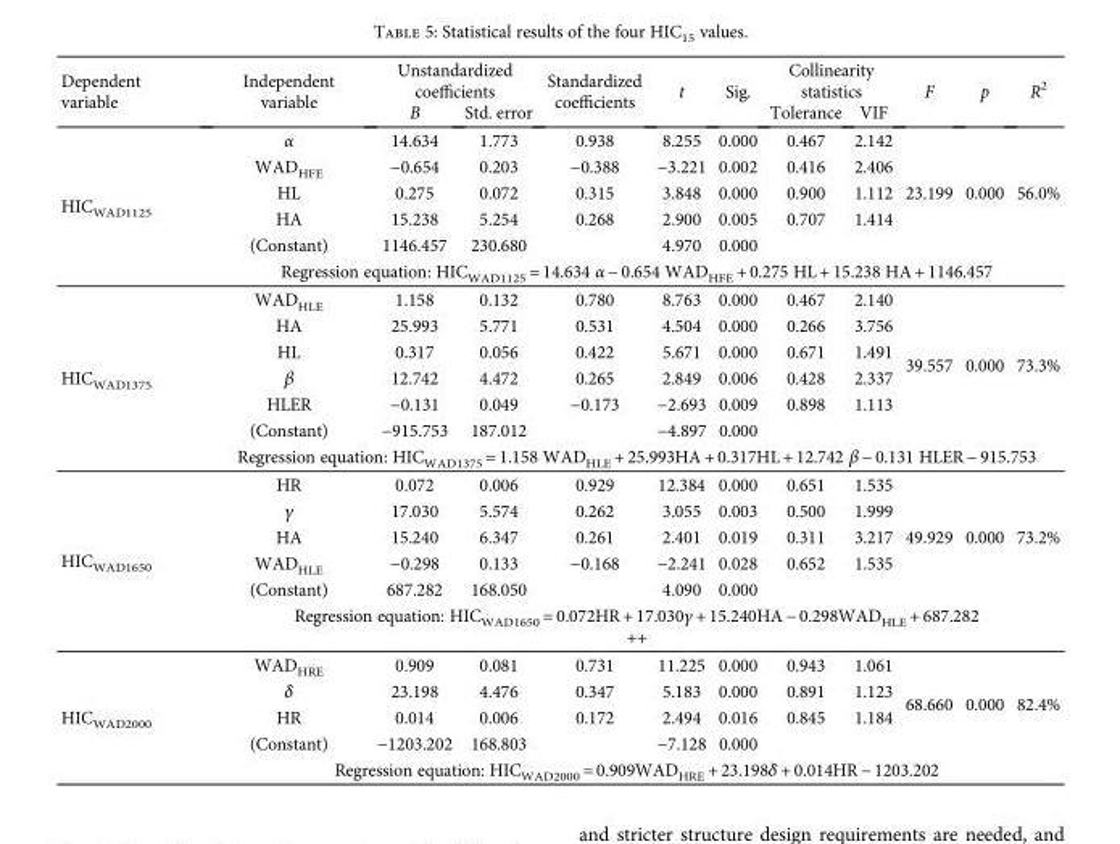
<table><thead><tr><td rowspan="2">Dependent variable</td><td rowspan="2">Independent variable</td><td colspan="2">Unstandardized coefficients</td><td rowspan="2">Standardized coefficients</td><td rowspan="2">t</td><td rowspan="2">Sig.</td><td colspan="2">Collinearity statistics</td><td rowspan="2">F</td><td rowspan="2">p</td><td rowspan="2">R<sup>2</sup></td></tr><tr><td>B</td><td>Std. error</td><td>Tolerance</td><td>VIF</td></tr></thead><tbody><tr><td rowspan="6">HIC<sub>WAD1125</sub></td><td>α</td><td>14.634</td><td>1.773</td><td>0.938</td><td>8.255</td><td>0.000</td><td>0.467</td><td>2.142</td><td rowspan="5">23.199</td><td rowspan="5">0.000</td><td rowspan="5">56.0%</td></tr><tr><td>WAD<sub>HFE</sub></td><td>−0.654</td><td>0.203</td><td>−0.388</td><td>−3.221</td><td>0.002</td><td>0.416</td><td>2.406</td></tr><tr><td>HL</td><td>0.275</td><td>0.072</td><td>0.315</td><td>3.848</td><td>0.000</td><td>0.900</td><td>1.112</td></tr><tr><td>HA</td><td>15.238</td><td>5.254</td><td>0.268</td><td>2.900</td><td>0.005</td><td>0.707</td><td>1.414</td></tr><tr><td>(Constant)</td><td>1146.457</td><td>230.680</td><td></td><td>4.970</td><td>0.000</td><td></td><td></td></tr><tr><td colspan="11">Regression equation: HIC<sub>WAD1125</sub> = 14.634 α − 0.654 WAD<sub>HFE</sub> + 0.275 HL + 15.238 HA + 1146.457</td></tr><tr><td rowspan="7">HIC<sub>WAD1375</sub></td><td>WAD<sub>HLE</sub></td><td>1.158</td><td>0.132</td><td>0.780</td><td>8.763</td><td>0.000</td><td>0.467</td><td>2.140</td><td rowspan="6">39.557</td><td rowspan="6">0.000</td><td rowspan="6">73.3%</td></tr><tr><td>HA</td><td>25.993</td><td>5.771</td><td>0.531</td><td>4.504</td><td>0.000</td><td>0.266</td><td>3.756</td></tr><tr><td>HL</td><td>0.317</td><td>0.056</td><td>0.422</td><td>5.671</td><td>0.000</td><td>0.671</td><td>1.491</td></tr><tr><td>β</td><td>12.742</td><td>4.472</td><td>0.265</td><td>2.849</td><td>0.006</td><td>0.428</td><td>2.337</td></tr><tr><td>HLER</td><td>−0.131</td><td>0.049</td><td>−0.173</td><td>−2.693</td><td>0.009</td><td>0.898</td><td>1.113</td></tr><tr><td>(Constant)</td><td>−915.753</td><td>187.012</td><td></td><td>−4.897</td><td>0.000</td><td></td><td></td></tr><tr><td colspan="11">Regression equation: HIC<sub>WAD1375</sub> = 1.158 WAD<sub>HLE</sub> + 25.993HA + 0.317HL + 12.742 β − 0.131 HLER − 915.753</td></tr><tr><td rowspan="6">HIC<sub>WAD1650</sub></td><td>HR</td><td>0.072</td><td>0.006</td><td>0.929</td><td>12.384</td><td>0.000</td><td>0.651</td><td>1.535</td><td rowspan="5">49.929</td><td rowspan="5">0.000</td><td rowspan="5">73.2%</td></tr><tr><td>γ</td><td>17.030</td><td>5.574</td><td>0.262</td><td>3.055</td><td>0.003</td><td>0.500</td><td>1.999</td></tr><tr><td>HA</td><td>15.240</td><td>6.347</td><td>0.261</td><td>2.401</td><td>0.019</td><td>0.311</td><td>3.217</td></tr><tr><td>WAD<sub>HLE</sub></td><td>−0.298</td><td>0.133</td><td>−0.168</td><td>−2.241</td><td>0.028</td><td>0.652</td><td>1.535</td></tr><tr><td>(Constant)</td><td>687.282</td><td>168.050</td><td></td><td>4.090</td><td>0.000</td><td></td><td></td></tr><tr><td colspan="11">Regression equation: HIC<sub>WAD1650</sub> = 0.072HR + 17.030γ + 15.240HA − 0.298WAD<sub>HLE</sub> + 687.282 ++</td></tr><tr><td rowspan="5">HIC<sub>WAD2000</sub></td><td>WAD<sub>HRE</sub></td><td>0.909</td><td>0.081</td><td>0.731</td><td>11.225</td><td>0.000</td><td>0.943</td><td>1.061</td><td rowspan="4">68.660</td><td rowspan="4">0.000</td><td rowspan="4">82.4%</td></tr><tr><td>δ</td><td>23.198</td><td>4.476</td><td>0.347</td><td>5.183</td><td>0.000</td><td>0.891</td><td>1.123</td></tr><tr><td>HR</td><td>0.014</td><td>0.006</td><td>0.172</td><td>2.494</td><td>0.016</td><td>0.845</td><td>1.184</td></tr><tr><td>(Constant)</td><td>−1203.202</td><td>168.803</td><td></td><td>−7.128</td><td>0.000</td><td></td><td></td></tr><tr><td colspan="11">Regression equation: HIC<sub>WAD2000</sub> = 0.909WAD<sub>HRE</sub> + 23.198δ + 0.014HR − 1203.202</td></tr></tbody></table>